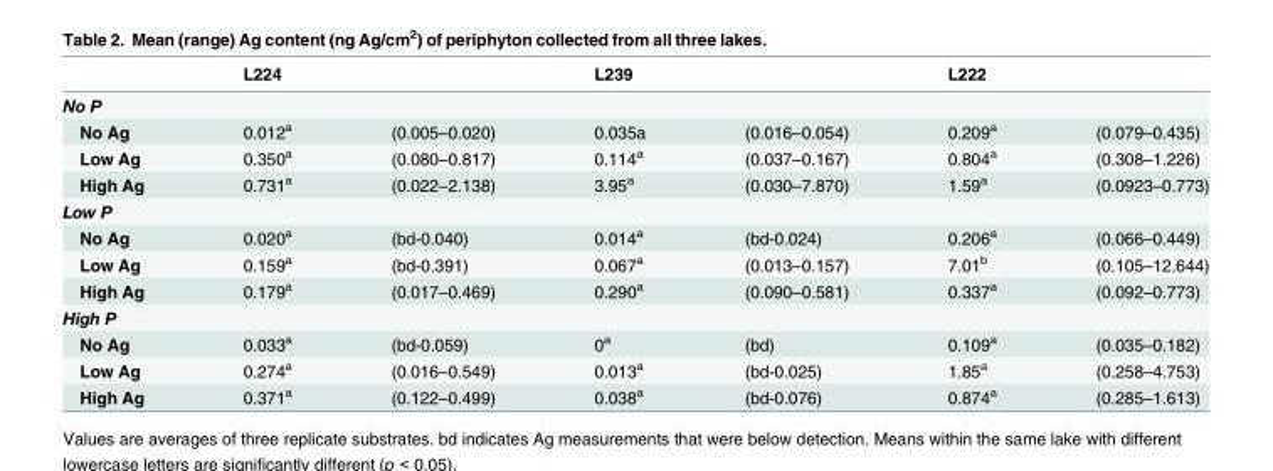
<table><thead><tr><td></td><td>L224</td><td></td><td>L239</td><td></td><td>L222</td><td></td></tr></thead><tbody><tr><td colspan="7">No P</td></tr><tr><td>No Ag</td><td>0.012<sup>a</sup></td><td>(0.005–0.020)</td><td>0.035a</td><td>(0.016–0.054)</td><td>0.209<sup>a</sup></td><td>(0.079–0.435)</td></tr><tr><td>Low Ag</td><td>0.350<sup>a</sup></td><td>(0.080–0.817)</td><td>0.114<sup>a</sup></td><td>(0.037–0.167)</td><td>0.804<sup>a</sup></td><td>(0.308–1.226)</td></tr><tr><td>High Ag</td><td>0.731<sup>a</sup></td><td>(0.022–2.138)</td><td>3.95<sup>a</sup></td><td>(0.030–7.870)</td><td>1.59<sup>a</sup></td><td>(0.0923–0.773)</td></tr><tr><td colspan="7">Low P</td></tr><tr><td>No Ag</td><td>0.020<sup>a</sup></td><td>(bd-0.040)</td><td>0.014<sup>a</sup></td><td>(bd-0.024)</td><td>0.206<sup>a</sup></td><td>(0.066–0.449)</td></tr><tr><td>Low Ag</td><td>0.159<sup>a</sup></td><td>(bd-0.391)</td><td>0.067<sup>a</sup></td><td>(0.013–0.157)</td><td>7.01<sup>b</sup></td><td>(0.105–12.644)</td></tr><tr><td>High Ag</td><td>0.179<sup>a</sup></td><td>(0.017–0.469)</td><td>0.290<sup>a</sup></td><td>(0.090–0.581)</td><td>0.337<sup>a</sup></td><td>(0.092–0.773)</td></tr><tr><td colspan="7">High P</td></tr><tr><td>No Ag</td><td>0.033<sup>a</sup></td><td>(bd-0.059)</td><td>0<sup>a</sup></td><td>(bd)</td><td>0.109<sup>a</sup></td><td>(0.035–0.182)</td></tr><tr><td>Low Ag</td><td>0.274<sup>a</sup></td><td>(0.016–0.549)</td><td>0.013<sup>a</sup></td><td>(bd-0.025)</td><td>1.85<sup>a</sup></td><td>(0.258–4.753)</td></tr><tr><td>High Ag</td><td>0.371<sup>a</sup></td><td>(0.122–0.499)</td><td>0.038<sup>a</sup></td><td>(bd-0.076)</td><td>0.874<sup>a</sup></td><td>(0.285–1.613)</td></tr></tbody></table>